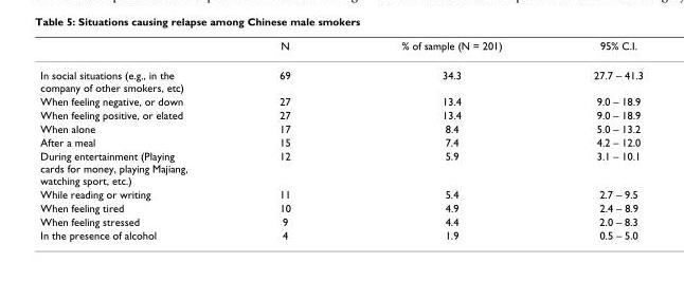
<table><thead><tr><td></td><td>N</td><td>% of sample (N = 201)</td><td>95% C.I.</td></tr></thead><tbody><tr><td>In social situations (e.g., in the company of other smokers, etc)</td><td>69</td><td>34.3</td><td>27.7 – 41.3</td></tr><tr><td>When feeling negative, or down</td><td>27</td><td>13.4</td><td>9.0 – 18.9</td></tr><tr><td>When feeling positive, or elated</td><td>27</td><td>13.4</td><td>9.0 – 18.9</td></tr><tr><td>When alone</td><td>17</td><td>8.4</td><td>5.0 – 13.2</td></tr><tr><td>After a meal</td><td>15</td><td>7.4</td><td>4.2 – 12.0</td></tr><tr><td>During entertainment (Playing cards for money, playing Majiang, watching sport, etc.)</td><td>12</td><td>5.9</td><td>3.1 – 10.1</td></tr><tr><td>While reading or writing</td><td>11</td><td>5.4</td><td>2.7 – 9.5</td></tr><tr><td>When feeling tired</td><td>10</td><td>4.9</td><td>2.4 – 8.9</td></tr><tr><td>When feeling stressed</td><td>9</td><td>4.4</td><td>2.0 – 8.3</td></tr><tr><td>In the presence of alcohol</td><td>4</td><td>1.9</td><td>0.5 – 5.0</td></tr></tbody></table>